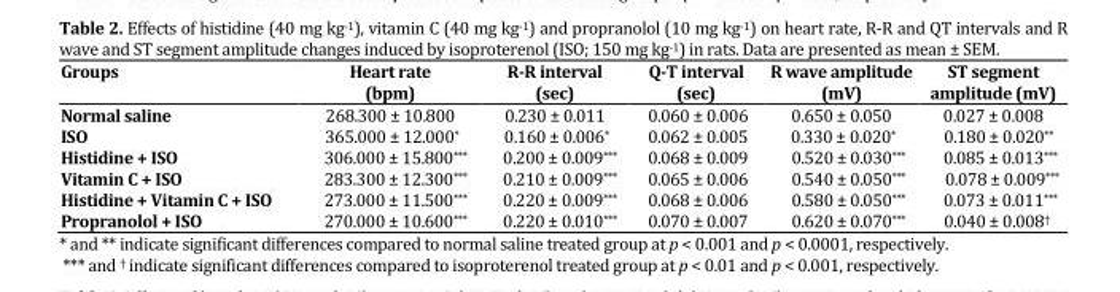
<table><thead><tr><td>Groups</td><td>Heart rate (bpm)</td><td>R-R interval (sec)</td><td>Q-T interval (sec)</td><td>R wave amplitude (mV)</td><td>ST segment amplitude (mV)</td></tr></thead><tbody><tr><td>Normal saline</td><td>268.300 ± 10.800</td><td>0.230 ± 0.011</td><td>0.060 ± 0.006</td><td>0.650 ± 0.050</td><td>0.027 ± 0.008</td></tr><tr><td>ISO</td><td>365.000 ± 12.000*</td><td>0.160 ± 0.006*</td><td>0.062 ± 0.005</td><td>0.330 ± 0.020*</td><td>0.180 ± 0.020**</td></tr><tr><td>Histidine + ISO</td><td>306.000 ± 15.800***</td><td>0.200 ± 0.009***</td><td>0.068 ± 0.009</td><td>0.520 ± 0.030***</td><td>0.085 ± 0.013***</td></tr><tr><td>Vitamin C + ISO</td><td>283.300 ± 12.300***</td><td>0.210 ± 0.009***</td><td>0.065 ± 0.006</td><td>0.540 ± 0.050***</td><td>0.078 ± 0.009***</td></tr><tr><td>Histidine + Vitamin C + ISO</td><td>273.000 ± 11.500***</td><td>0.220 ± 0.009***</td><td>0.068 ± 0.006</td><td>0.580 ± 0.050***</td><td>0.073 ± 0.011***</td></tr><tr><td>Propranolol + ISO</td><td>270.000 ± 10.600***</td><td>0.220 ± 0.010***</td><td>0.070 ± 0.007</td><td>0.620 ± 0.070***</td><td>0.040 ± 0.008†</td></tr></tbody></table>